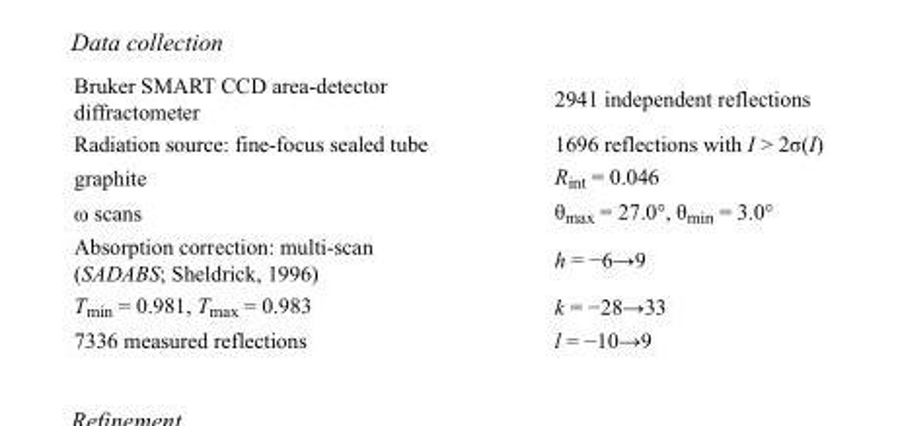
<table><tbody><tr><td>Bruker SMART CCD area-detector diffractometer</td><td>2941 independent reflections</td></tr><tr><td>Radiation source: fine-focus sealed tube</td><td>1696 reflections with I &gt; 2σ(I)</td></tr><tr><td>graphite</td><td>R<sub>int</sub> = 0.046</td></tr><tr><td>ω scans</td><td>θ<sub>max</sub> = 27.0°, θ<sub>min</sub> = 3.0°</td></tr><tr><td>Absorption correction: multi-scan (SADABS; Sheldrick, 1996)</td><td>h = −6→9</td></tr><tr><td>T<sub>min</sub> = 0.981, T<sub>max</sub> = 0.983</td><td>k = −28→33</td></tr><tr><td>7336 measured reflections</td><td>l = −10→9</td></tr></tbody></table>